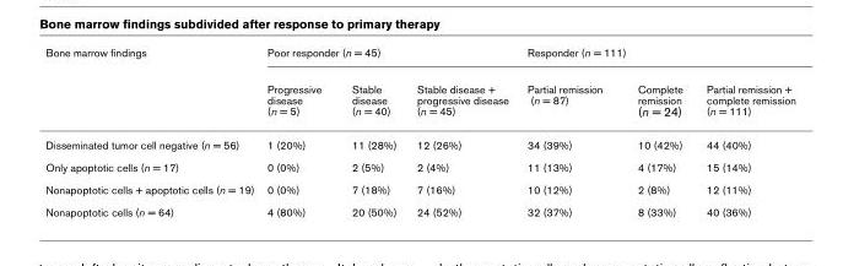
<table><thead><tr><td rowspan="2">Bone marrow findings</td><td colspan="3">Poor responder (n = 45)</td><td colspan="3">Responder (n = 111)</td></tr><tr><td>Progressive disease (n = 5)</td><td>Stable disease (n = 40)</td><td>Stable disease + progressive disease (n = 45)</td><td>Partial remission (n = 87)</td><td>Complete remission (n = 24)</td><td>Partial remission + complete remission (n = 111)</td></tr></thead><tbody><tr><td>Disseminated tumor cell negative (n = 56)</td><td>1 (20%)</td><td>11 (28%)</td><td>12 (26%)</td><td>34 (39%)</td><td>10 (42%)</td><td>44 (40%)</td></tr><tr><td>Only apoptotic cells (n = 17)</td><td>0 (0%)</td><td>2 (5%)</td><td>2 (4%)</td><td>11 (13%)</td><td>4 (17%)</td><td>15 (14%)</td></tr><tr><td>Nonapoptotic cells + apoptotic cells (n = 19)</td><td>0 (0%)</td><td>7 (18%)</td><td>7 (16%)</td><td>10 (12%)</td><td>2 (8%)</td><td>12 (11%)</td></tr><tr><td>Nonapoptotic cells (n = 64)</td><td>4 (80%)</td><td>20 (50%)</td><td>24 (52%)</td><td>32 (37%)</td><td>8 (33%)</td><td>40 (36%)</td></tr></tbody></table>